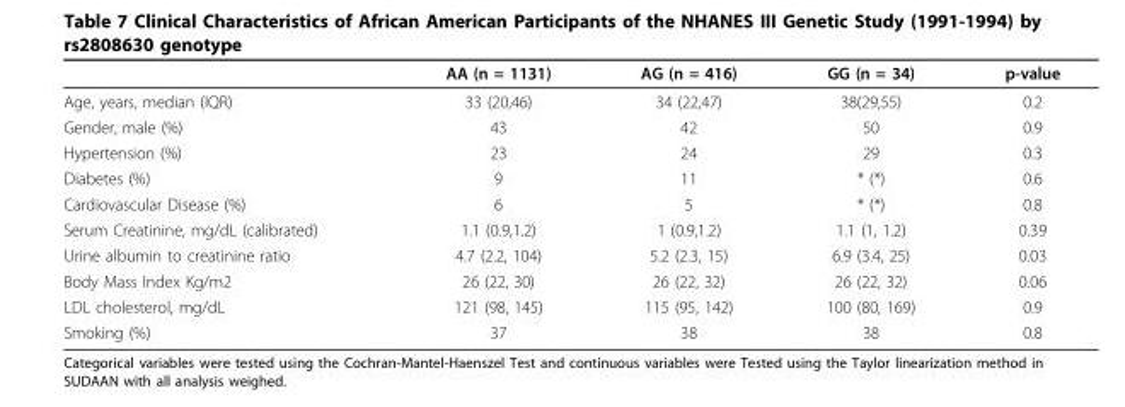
<table><thead><tr><td></td><td>AA (n = 1131)</td><td>AG (n = 416)</td><td>GG (n = 34)</td><td>p-value</td></tr></thead><tbody><tr><td>Age, years, median (IQR)</td><td>33 (20,46)</td><td>34 (22,47)</td><td>38(29,55)</td><td>0.2</td></tr><tr><td>Gender, male (%)</td><td>43</td><td>42</td><td>50</td><td>0.9</td></tr><tr><td>Hypertension (%)</td><td>23</td><td>24</td><td>29</td><td>0.3</td></tr><tr><td>Diabetes (%)</td><td>9</td><td>11</td><td>* (*)</td><td>0.6</td></tr><tr><td>Cardiovascular Disease (%)</td><td>6</td><td>5</td><td>* (*)</td><td>0.8</td></tr><tr><td>Serum Creatinine, mg/dL (calibrated)</td><td>1.1 (0.9,1.2)</td><td>1 (0.9,1.2)</td><td>1.1 (1, 1.2)</td><td>0.39</td></tr><tr><td>Urine albumin to creatinine ratio</td><td>4.7 (2.2, 104)</td><td>5.2 (2.3, 15)</td><td>6.9 (3.4, 25)</td><td>0.03</td></tr><tr><td>Body Mass Index Kg/m2</td><td>26 (22, 30)</td><td>26 (22, 32)</td><td>26 (22, 32)</td><td>0.06</td></tr><tr><td>LDL cholesterol, mg/dL</td><td>121 (98, 145)</td><td>115 (95, 142)</td><td>100 (80, 169)</td><td>0.9</td></tr><tr><td>Smoking (%)</td><td>37</td><td>38</td><td>38</td><td>0.8</td></tr></tbody></table>